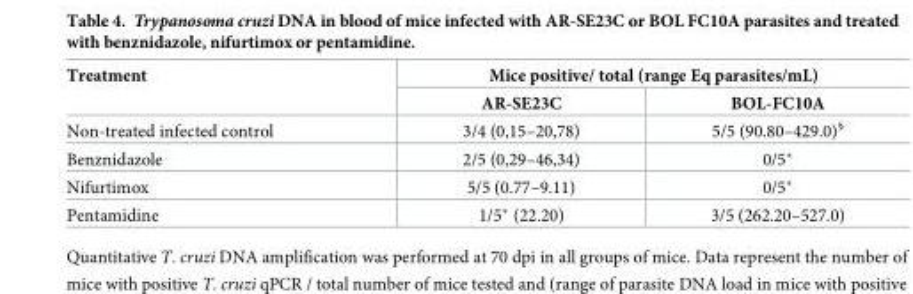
<table><thead><tr><td rowspan="2">Treatment</td><td colspan="2">Mice positive/ total (range Eq parasites/mL)</td></tr><tr><td>AR-SE23C</td><td>BOL-FC10A</td></tr></thead><tbody><tr><td>Non-treated infected control</td><td>3/4 (0,15–20,78)</td><td>5/5 (90.80–429.0)<sup>§</sup></td></tr><tr><td>Benznidazole</td><td>2/5 (0,29–46,34)</td><td>0/5*</td></tr><tr><td>Nifurtimox</td><td>5/5 (0.77–9.11)</td><td>0/5*</td></tr><tr><td>Pentamidine</td><td>1/5* (22.20)</td><td>3/5 (262.20–527.0)</td></tr></tbody></table>